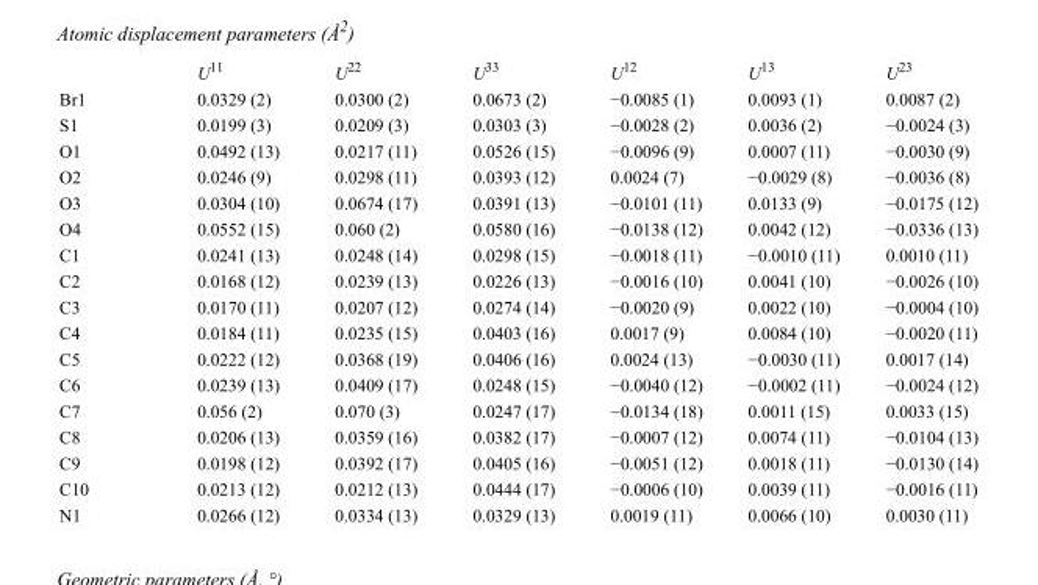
<table><thead><tr><td></td><td>U<sup>11</sup></td><td>U<sup>22</sup></td><td>U<sup>33</sup></td><td>U<sup>12</sup></td><td>U<sup>13</sup></td><td>U<sup>23</sup></td></tr></thead><tbody><tr><td>Br1</td><td>0.0329 (2)</td><td>0.0300 (2)</td><td>0.0673 (2)</td><td>−0.0085 (1)</td><td>0.0093 (1)</td><td>0.0087 (2)</td></tr><tr><td>S1</td><td>0.0199 (3)</td><td>0.0209 (3)</td><td>0.0303 (3)</td><td>−0.0028 (2)</td><td>0.0036 (2)</td><td>−0.0024 (3)</td></tr><tr><td>O1</td><td>0.0492 (13)</td><td>0.0217 (11)</td><td>0.0526 (15)</td><td>−0.0096 (9)</td><td>0.0007 (11)</td><td>−0.0030 (9)</td></tr><tr><td>O2</td><td>0.0246 (9)</td><td>0.0298 (11)</td><td>0.0393 (12)</td><td>0.0024 (7)</td><td>−0.0029 (8)</td><td>−0.0036 (8)</td></tr><tr><td>O3</td><td>0.0304 (10)</td><td>0.0674 (17)</td><td>0.0391 (13)</td><td>−0.0101 (11)</td><td>0.0133 (9)</td><td>−0.0175 (12)</td></tr><tr><td>O4</td><td>0.0552 (15)</td><td>0.060 (2)</td><td>0.0580 (16)</td><td>−0.0138 (12)</td><td>0.0042 (12)</td><td>−0.0336 (13)</td></tr><tr><td>C1</td><td>0.0241 (13)</td><td>0.0248 (14)</td><td>0.0298 (15)</td><td>−0.0018 (11)</td><td>−0.0010 (11)</td><td>0.0010 (11)</td></tr><tr><td>C2</td><td>0.0168 (12)</td><td>0.0239 (13)</td><td>0.0226 (13)</td><td>−0.0016 (10)</td><td>0.0041 (10)</td><td>−0.0026 (10)</td></tr><tr><td>C3</td><td>0.0170 (11)</td><td>0.0207 (12)</td><td>0.0274 (14)</td><td>−0.0020 (9)</td><td>0.0022 (10)</td><td>−0.0004 (10)</td></tr><tr><td>C4</td><td>0.0184 (11)</td><td>0.0235 (15)</td><td>0.0403 (16)</td><td>0.0017 (9)</td><td>0.0084 (10)</td><td>−0.0020 (11)</td></tr><tr><td>C5</td><td>0.0222 (12)</td><td>0.0368 (19)</td><td>0.0406 (16)</td><td>0.0024 (13)</td><td>−0.0030 (11)</td><td>0.0017 (14)</td></tr><tr><td>C6</td><td>0.0239 (13)</td><td>0.0409 (17)</td><td>0.0248 (15)</td><td>−0.0040 (12)</td><td>−0.0002 (11)</td><td>−0.0024 (12)</td></tr><tr><td>C7</td><td>0.056 (2)</td><td>0.070 (3)</td><td>0.0247 (17)</td><td>−0.0134 (18)</td><td>0.0011 (15)</td><td>0.0033 (15)</td></tr><tr><td>C8</td><td>0.0206 (13)</td><td>0.0359 (16)</td><td>0.0382 (17)</td><td>−0.0007 (12)</td><td>0.0074 (11)</td><td>−0.0104 (13)</td></tr><tr><td>C9</td><td>0.0198 (12)</td><td>0.0392 (17)</td><td>0.0405 (16)</td><td>−0.0051 (12)</td><td>0.0018 (11)</td><td>−0.0130 (14)</td></tr><tr><td>C10</td><td>0.0213 (12)</td><td>0.0212 (13)</td><td>0.0444 (17)</td><td>−0.0006 (10)</td><td>0.0039 (11)</td><td>−0.0016 (11)</td></tr><tr><td>N1</td><td>0.0266 (12)</td><td>0.0334 (13)</td><td>0.0329 (13)</td><td>0.0019 (11)</td><td>0.0066 (10)</td><td>0.0030 (11)</td></tr></tbody></table>